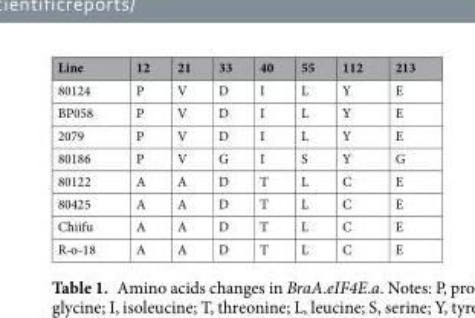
<table><thead><tr><td>Line</td><td>12</td><td>21</td><td>33</td><td>40</td><td>55</td><td>112</td><td>213</td></tr></thead><tbody><tr><td>80124</td><td>P</td><td>V</td><td>D</td><td>I</td><td>L</td><td>Y</td><td>E</td></tr><tr><td>BP058</td><td>P</td><td>V</td><td>D</td><td>I</td><td>L</td><td>Y</td><td>E</td></tr><tr><td>2079</td><td>P</td><td>V</td><td>D</td><td>I</td><td>L</td><td>Y</td><td>E</td></tr><tr><td>80186</td><td>P</td><td>V</td><td>G</td><td>I</td><td>S</td><td>Y</td><td>G</td></tr><tr><td>80122</td><td>A</td><td>A</td><td>D</td><td>T</td><td>L</td><td>C</td><td>E</td></tr><tr><td>80425</td><td>A</td><td>A</td><td>D</td><td>T</td><td>L</td><td>C</td><td>E</td></tr><tr><td>Chiifu</td><td>A</td><td>A</td><td>D</td><td>T</td><td>L</td><td>C</td><td>E</td></tr><tr><td>R-o-18</td><td>A</td><td>A</td><td>D</td><td>T</td><td>L</td><td>C</td><td>E</td></tr></tbody></table>